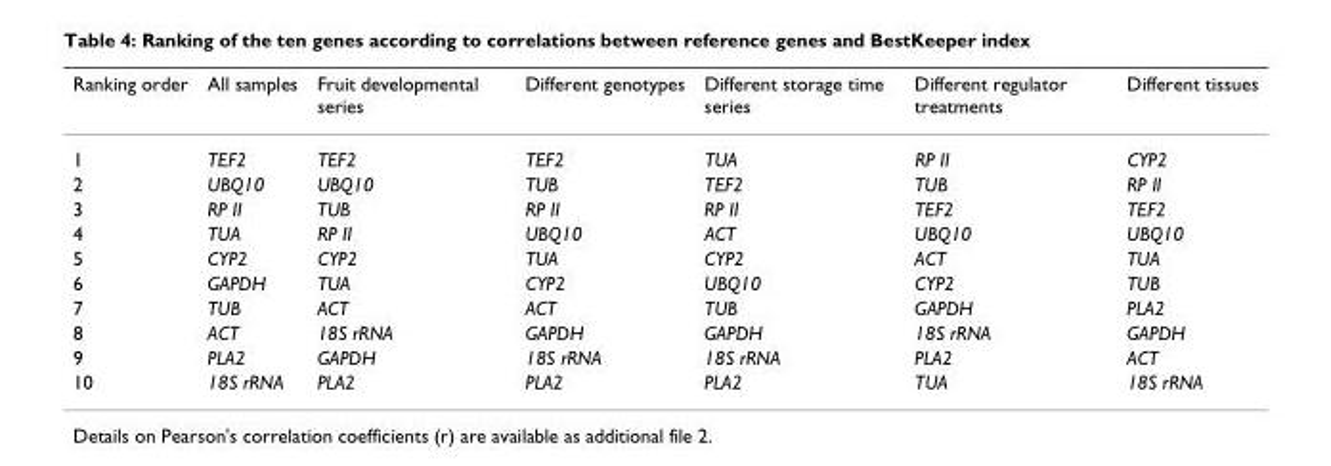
<table><thead><tr><td>Ranking order</td><td>All samples</td><td>Fruit developmental series</td><td>Different genotypes</td><td>Different storage time series</td><td>Different regulator treatments</td><td>Different tissues</td></tr></thead><tbody><tr><td>1</td><td>TEF2</td><td>TEF2</td><td>TEF2</td><td>TUA</td><td>RP II</td><td>CYP2</td></tr><tr><td>2</td><td>UBQ10</td><td>UBQ10</td><td>TUB</td><td>TEF2</td><td>TUB</td><td>RP II</td></tr><tr><td>3</td><td>RP II</td><td>TUB</td><td>RP II</td><td>RP II</td><td>TEF2</td><td>TEF2</td></tr><tr><td>4</td><td>TUA</td><td>RP II</td><td>UBQ10</td><td>ACT</td><td>UBQ10</td><td>UBQ10</td></tr><tr><td>5</td><td>CYP2</td><td>CYP2</td><td>TUA</td><td>CYP2</td><td>ACT</td><td>TUA</td></tr><tr><td>6</td><td>GAPDH</td><td>TUA</td><td>CYP2</td><td>UBQ10</td><td>CYP2</td><td>TUB</td></tr><tr><td>7</td><td>TUB</td><td>ACT</td><td>ACT</td><td>TUB</td><td>GAPDH</td><td>PLA2</td></tr><tr><td>8</td><td>ACT</td><td>18S rRNA</td><td>GAPDH</td><td>GAPDH</td><td>18S rRNA</td><td>GAPDH</td></tr><tr><td>9</td><td>PLA2</td><td>GAPDH</td><td>18S rRNA</td><td>18S rRNA</td><td>PLA2</td><td>ACT</td></tr><tr><td>10</td><td>18S rRNA</td><td>PLA2</td><td>PLA2</td><td>PLA2</td><td>TUA</td><td>18S rRNA</td></tr></tbody></table>